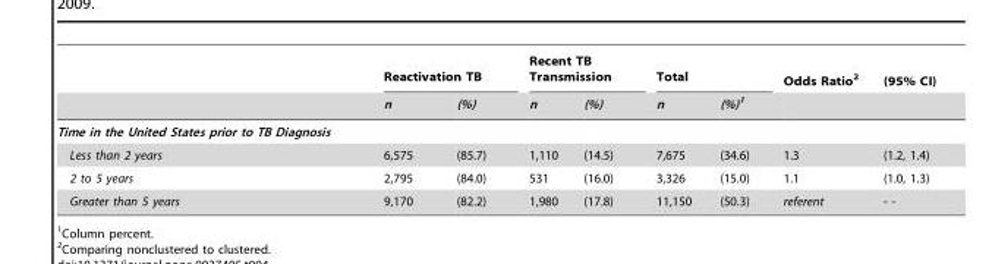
<table><thead><tr><td rowspan="2"></td><td colspan="2">Reactivation TB</td><td colspan="2">Recent TB Transmission</td><td colspan="2">Total</td><td rowspan="2">Odds Ratio<sup>2</sup></td><td rowspan="2">(95% CI)</td></tr><tr><td>n</td><td>(%)</td><td>n</td><td>(%)</td><td>n</td><td>(%)1</td></tr></thead><tbody><tr><td colspan="9">Time in the United States prior to TB Diagnosis</td></tr><tr><td>Less than 2 years</td><td>6,575</td><td>(85.7)</td><td>1,110</td><td>(14.5)</td><td>7,675</td><td>(34.6)</td><td>1.3</td><td>(1.2, 1.4)</td></tr><tr><td>2 to 5 years</td><td>2,795</td><td>(84.0)</td><td>531</td><td>(16.0)</td><td>3,326</td><td>(15.0)</td><td>1.1</td><td>(1.0, 1.3)</td></tr><tr><td>Greater than 5 years</td><td>9,170</td><td>(82.2)</td><td>1,980</td><td>(17.8)</td><td>11,150</td><td>(50.3)</td><td>referent</td><td>- -</td></tr></tbody></table>